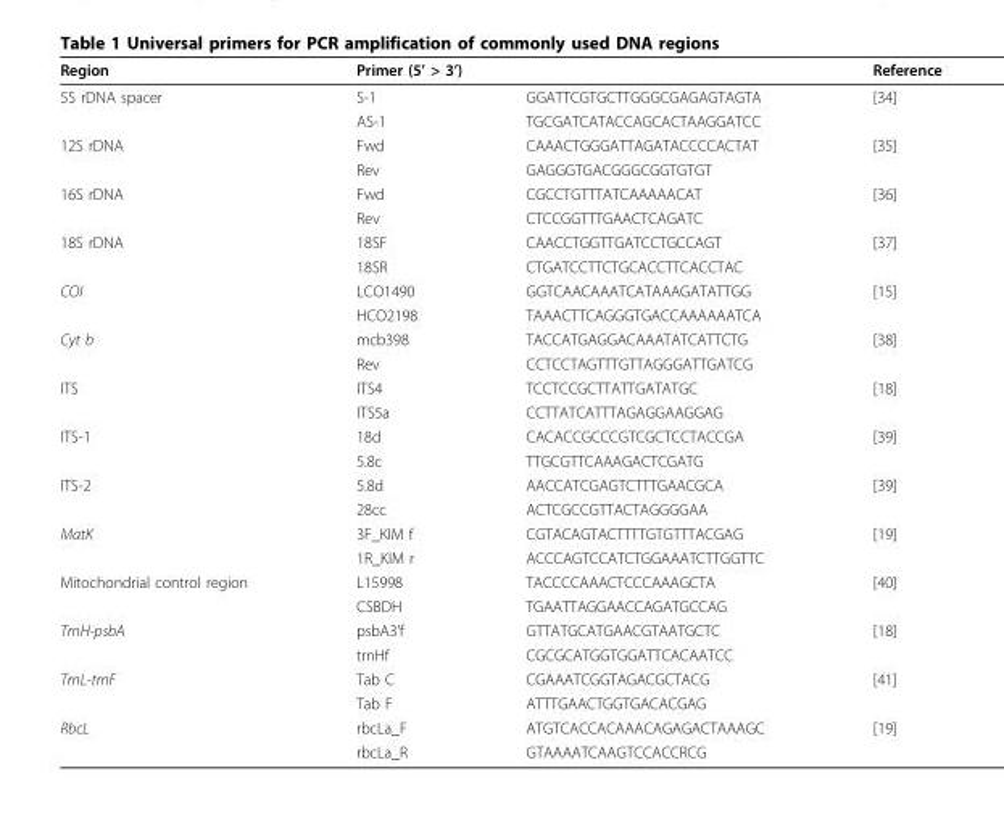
<table><thead><tr><td rowspan="2">Region 5S rDNA spacer</td><td colspan="2">Primer (5’ &gt; 3’)</td><td rowspan="2">Reference [34]</td></tr><tr><td>S-1</td><td>GGATTCGTGCTTGGGCGAGAGTAGTA</td></tr></thead><tbody><tr><td></td><td>AS-1</td><td>TGCGATCATACCAGCACTAAGGATCC</td><td></td></tr><tr><td rowspan="2">12S rDNA</td><td>Fwd</td><td>CAAACTGGGATTAGATACCCCACTAT</td><td>[35]</td></tr><tr><td>Rev</td><td>GAGGGTGACGGGCGGTGTGT</td><td></td></tr><tr><td rowspan="2">16S rDNA</td><td>Fwd</td><td>CGCCTGTTTATCAAAAACAT</td><td>[36]</td></tr><tr><td>Rev</td><td>CTCCGGTTTGAACTCAGATC</td><td></td></tr><tr><td rowspan="2">18S rDNA</td><td>18SF</td><td>CAACCTGGTTGATCCTGCCAGT</td><td>[37]</td></tr><tr><td>18SR</td><td>CTGATCCTTCTGCACCTTCACCTAC</td><td></td></tr><tr><td rowspan="2">COI</td><td>LCO1490</td><td>GGTCAACAAATCATAAAGATATTGG</td><td>[15]</td></tr><tr><td>HCO2198</td><td>TAAACTTCAGGGTGACCAAAAAATCA</td><td></td></tr><tr><td rowspan="2">Cyt b</td><td>mcb398</td><td>TACCATGAGGACAAATATCATTCTG</td><td>[38]</td></tr><tr><td>Rev</td><td>CCTCCTAGTTTGTTAGGGATTGATCG</td><td></td></tr><tr><td rowspan="2">ITS</td><td>ITS4</td><td>TCCTCCGCTTATTGATATGC</td><td>[18]</td></tr><tr><td>ITS5a</td><td>CCTTATCATTTAGAGGAAGGAG</td><td></td></tr><tr><td rowspan="2">ITS-1</td><td>18d</td><td>CACACCGCCCGTCGCTCCTACCGA</td><td>[39]</td></tr><tr><td>5.8c</td><td>TTGCGTTCAAAGACTCGATG</td><td></td></tr><tr><td rowspan="2">ITS-2</td><td>5.8d</td><td>AACCATCGAGTCTTTGAACGCA</td><td>[39]</td></tr><tr><td>28cc</td><td>ACTCGCCGTTACTAGGGGAA</td><td></td></tr><tr><td rowspan="2">MatK</td><td>3F_KIM f</td><td>CGTACAGTACTTTTGTGTTTACGAG</td><td>[19]</td></tr><tr><td>1R_KIM r</td><td>ACCCAGTCCATCTGGAAATCTTGGTTC</td><td></td></tr><tr><td rowspan="2">Mitochondrial control region</td><td>L15998</td><td>TACCCCAAACTCCCAAAGCTA</td><td>[40]</td></tr><tr><td>CSBDH</td><td>TGAATTAGGAACCAGATGCCAG</td><td></td></tr><tr><td rowspan="2">TrnH-psbA</td><td>psbA3’f</td><td>GTTATGCATGAACGTAATGCTC</td><td>[18]</td></tr><tr><td>trnHf</td><td>CGCGCATGGTGGATTCACAATCC</td><td></td></tr><tr><td rowspan="2">TrnL-trnF</td><td>Tab C</td><td>CGAAATCGGTAGACGCTACG</td><td>[41]</td></tr><tr><td>Tab F</td><td>ATTTGAACTGGTGACACGAG</td><td></td></tr><tr><td rowspan="2">RbcL</td><td>rbcLa_F</td><td>ATGTCACCACAAACAGAGACTAAAGC</td><td>[19]</td></tr><tr><td>rbcLa_R</td><td>GTAAAATCAAGTCCACCRCG</td><td></td></tr></tbody></table>